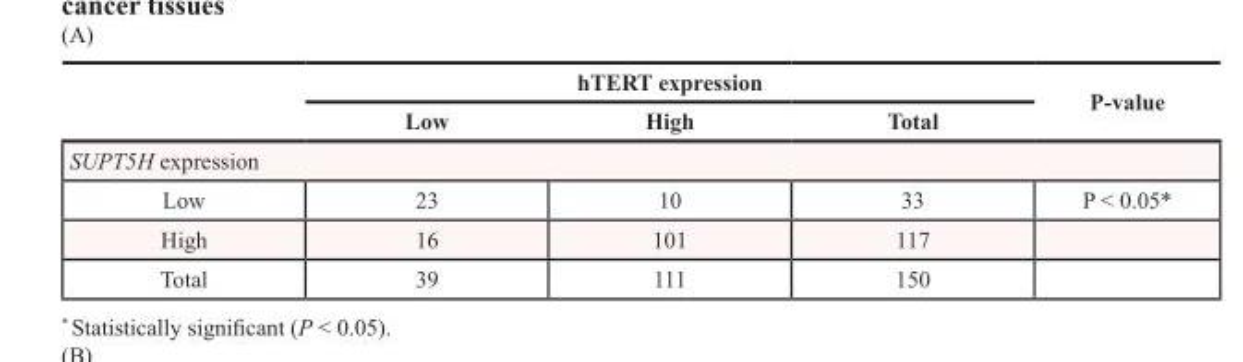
<table><thead><tr><td rowspan="2"></td><td colspan="3">hTERT expression</td><td rowspan="2">P-value</td></tr><tr><td>Low</td><td>High</td><td>Total</td></tr></thead><tbody><tr><td colspan="5">SUPT5H expression</td></tr><tr><td>Low</td><td>23</td><td>10</td><td>33</td><td>P &lt; 0.05*</td></tr><tr><td>High</td><td>16</td><td>101</td><td>117</td><td></td></tr><tr><td>Total</td><td>39</td><td>111</td><td>150</td><td></td></tr></tbody></table>